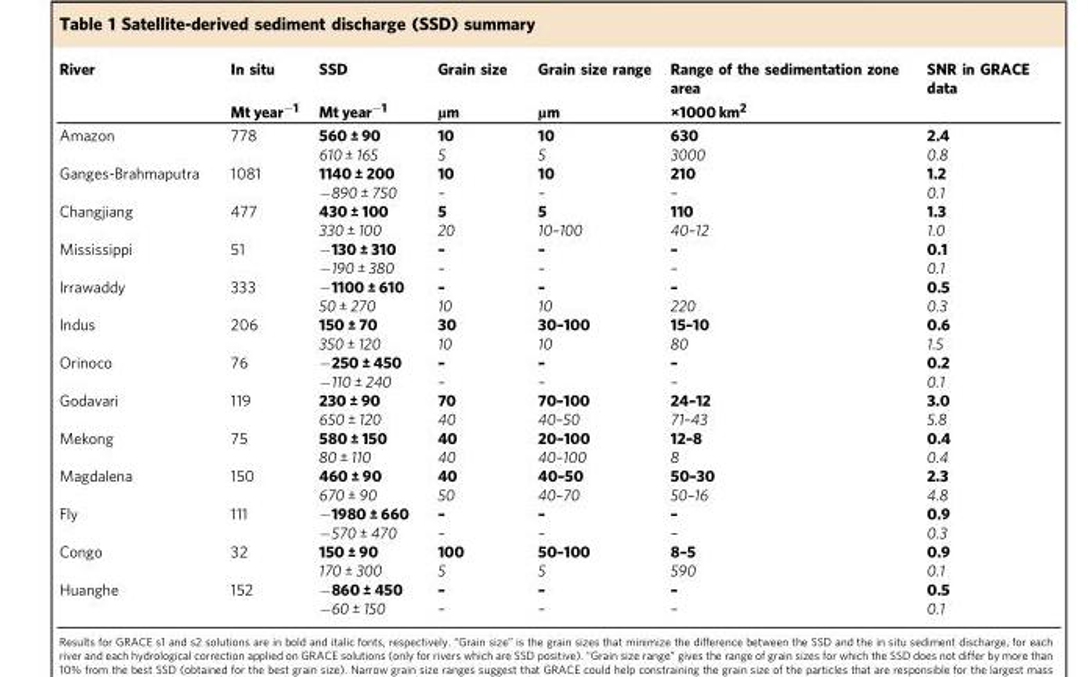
<table><thead><tr><td rowspan="2">River</td><td rowspan="2">In situ Mt year<sup>−1</sup></td><td rowspan="2">SSD Mt year<sup>−1</sup></td><td rowspan="2">Grain size µm</td><td rowspan="2">Grain size range µm</td><td rowspan="2">Range of the sedimentation zone area ×1000 km<sup>2</sup></td><td rowspan="2">SNR in GRACE data</td></tr><tr></tr></thead><tbody><tr><td rowspan="2">Amazon</td><td rowspan="2">778</td><td>560 ± 90</td><td>10</td><td>10</td><td>630</td><td>2.4</td></tr><tr><td>610 ± 165</td><td>5</td><td>5</td><td>3000</td><td>0.8</td></tr><tr><td rowspan="2">Ganges-Brahmaputra</td><td rowspan="2">1081</td><td>1140 ± 200</td><td>10</td><td>10</td><td>210</td><td>1.2</td></tr><tr><td>−890 ± 750</td><td>–</td><td>–</td><td>–</td><td>0.1</td></tr><tr><td rowspan="2">Changjiang</td><td rowspan="2">477</td><td>430 ± 100</td><td>5</td><td>5</td><td>110</td><td>1.3</td></tr><tr><td>330 ± 100</td><td>20</td><td>10–100</td><td>40–12</td><td>1.0</td></tr><tr><td rowspan="2">Mississippi</td><td rowspan="2">51</td><td>−130 ± 310</td><td>–</td><td>–</td><td>–</td><td>0.1</td></tr><tr><td>−190 ± 380</td><td>–</td><td>–</td><td>–</td><td>0.1</td></tr><tr><td rowspan="2">Irrawaddy</td><td rowspan="2">333</td><td>−1100 ± 610</td><td>–</td><td>–</td><td>–</td><td>0.5</td></tr><tr><td>50 ± 270</td><td>10</td><td>10</td><td>220</td><td>0.3</td></tr><tr><td rowspan="2">Indus</td><td rowspan="2">206</td><td>150 ± 70</td><td>30</td><td>30–100</td><td>15–10</td><td>0.6</td></tr><tr><td>350 ± 120</td><td>10</td><td>10</td><td>80</td><td>1.5</td></tr><tr><td rowspan="2">Orinoco</td><td rowspan="2">76</td><td>−250 ± 450</td><td>–</td><td>–</td><td>–</td><td>0.2</td></tr><tr><td>−110 ± 240</td><td>–</td><td>–</td><td>–</td><td>0.1</td></tr><tr><td rowspan="2">Godavari</td><td rowspan="2">119</td><td>230 ± 90</td><td>70</td><td>70–100</td><td>24–12</td><td>3.0</td></tr><tr><td>650 ± 120</td><td>40</td><td>40–50</td><td>71–43</td><td>5.8</td></tr><tr><td rowspan="2">Mekong</td><td rowspan="2">75</td><td>580 ± 150</td><td>40</td><td>20–100</td><td>12–8</td><td>0.4</td></tr><tr><td>80 ± 110</td><td>40</td><td>40–100</td><td>8</td><td>0.4</td></tr><tr><td rowspan="2">Magdalena</td><td rowspan="2">150</td><td>460 ± 90</td><td>40</td><td>40–50</td><td>50–30</td><td>2.3</td></tr><tr><td>670 ± 90</td><td>50</td><td>40–70</td><td>50–16</td><td>4.8</td></tr><tr><td rowspan="2">Fly</td><td rowspan="2">111</td><td>−1980 ± 660</td><td>–</td><td>–</td><td>–</td><td>0.9</td></tr><tr><td>−570 ± 470</td><td>–</td><td>–</td><td>–</td><td>0.3</td></tr><tr><td rowspan="2">Congo</td><td rowspan="2">32</td><td>150 ± 90</td><td>100</td><td>50–100</td><td>8–5</td><td>0.9</td></tr><tr><td>170 ± 300</td><td>5</td><td>5</td><td>590</td><td>0.1</td></tr><tr><td rowspan="2">Huanghe</td><td rowspan="2">152</td><td>−860 ± 450</td><td>–</td><td>–</td><td>–</td><td>0.5</td></tr><tr><td>−60 ± 150</td><td>–</td><td>–</td><td>–</td><td>0.1</td></tr></tbody></table>